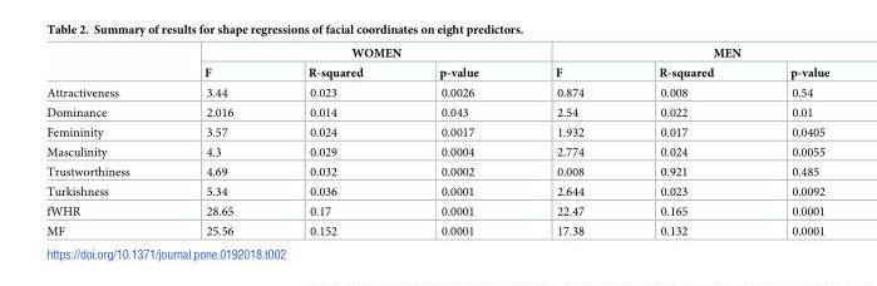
<table><thead><tr><td rowspan="2"></td><td colspan="3">WOMEN</td><td colspan="3">MEN</td></tr><tr><td>F</td><td>R-squared</td><td>p-value</td><td>F</td><td>R-squared</td><td>p-value</td></tr></thead><tbody><tr><td>Attractiveness</td><td>3.44</td><td>0.023</td><td>0.0026</td><td>0.874</td><td>0.008</td><td>0.54</td></tr><tr><td>Dominance</td><td>2.016</td><td>0.014</td><td>0.043</td><td>2.54</td><td>0.022</td><td>0.01</td></tr><tr><td>Femininity</td><td>3.57</td><td>0.024</td><td>0.0017</td><td>1.932</td><td>0.017</td><td>0.0405</td></tr><tr><td>Masculinity</td><td>4.3</td><td>0.029</td><td>0.0004</td><td>2.774</td><td>0.024</td><td>0.0055</td></tr><tr><td>Trustworthiness</td><td>4.69</td><td>0.032</td><td>0.0002</td><td>0.008</td><td>0.921</td><td>0.485</td></tr><tr><td>Turkishness</td><td>5.34</td><td>0.036</td><td>0.0001</td><td>2.644</td><td>0.023</td><td>0.0092</td></tr><tr><td>fWHR</td><td>28.65</td><td>0.17</td><td>0.0001</td><td>22.47</td><td>0.165</td><td>0.0001</td></tr><tr><td>MF</td><td>25.56</td><td>0.152</td><td>0.0001</td><td>17.38</td><td>0.132</td><td>0.0001</td></tr></tbody></table>